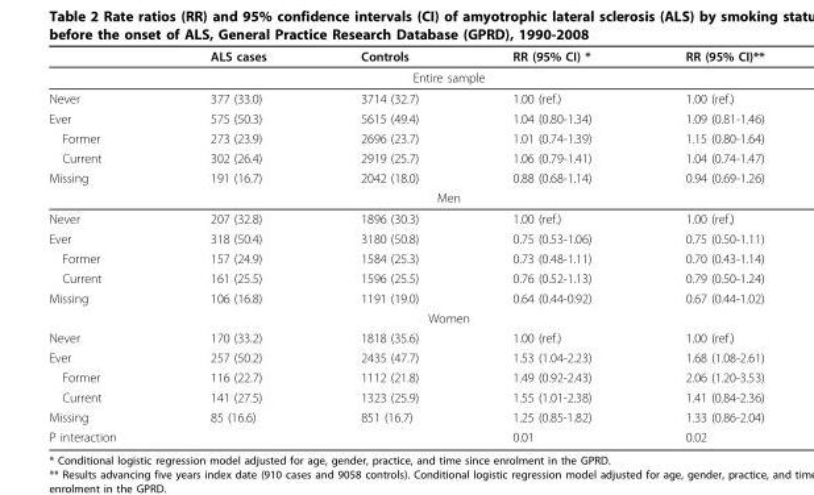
<table><thead><tr><td></td><td>ALS cases</td><td>Controls</td><td>RR (95% CI) *</td><td>RR (95% CI)**</td></tr></thead><tbody><tr><td colspan="5">Entire sample</td></tr><tr><td>Never</td><td>377 (33.0)</td><td>3714 (32.7)</td><td>1.00 (ref.)</td><td>1.00 (ref.)</td></tr><tr><td>Ever</td><td>575 (50.3)</td><td>5615 (49.4)</td><td>1.04 (0.80-1.34)</td><td>1.09 (0.81-1.46)</td></tr><tr><td>Former</td><td>273 (23.9)</td><td>2696 (23.7)</td><td>1.01 (0.74-1.39)</td><td>1.15 (0.80-1.64)</td></tr><tr><td>Current</td><td>302 (26.4)</td><td>2919 (25.7)</td><td>1.06 (0.79-1.41)</td><td>1.04 (0.74-1.47)</td></tr><tr><td>Missing</td><td>191 (16.7)</td><td>2042 (18.0)</td><td>0.88 (0.68-1.14)</td><td>0.94 (0.69-1.26)</td></tr><tr><td colspan="5">Men</td></tr><tr><td>Never</td><td>207 (32.8)</td><td>1896 (30.3)</td><td>1.00 (ref.)</td><td>1.00 (ref.)</td></tr><tr><td>Ever</td><td>318 (50.4)</td><td>3180 (50.8)</td><td>0.75 (0.53-1.06)</td><td>0.75 (0.50-1.11)</td></tr><tr><td>Former</td><td>157 (24.9)</td><td>1584 (25.3)</td><td>0.73 (0.48-1.11)</td><td>0.70 (0.43-1.14)</td></tr><tr><td>Current</td><td>161 (25.5)</td><td>1596 (25.5)</td><td>0.76 (0.52-1.13)</td><td>0.79 (0.50-1.24)</td></tr><tr><td>Missing</td><td>106 (16.8)</td><td>1191 (19.0)</td><td>0.64 (0.44-0.92)</td><td>0.67 (0.44-1.02)</td></tr><tr><td colspan="5">Women</td></tr><tr><td>Never</td><td>170 (33.2)</td><td>1818 (35.6)</td><td>1.00 (ref.)</td><td>1.00 (ref.)</td></tr><tr><td>Ever</td><td>257 (50.2)</td><td>2435 (47.7)</td><td>1.53 (1.04-2.23)</td><td>1.68 (1.08-2.61)</td></tr><tr><td>Former</td><td>116 (22.7)</td><td>1112 (21.8)</td><td>1.49 (0.92-2.43)</td><td>2.06 (1.20-3.53)</td></tr><tr><td>Current</td><td>141 (27.5)</td><td>1323 (25.9)</td><td>1.55 (1.01-2.38)</td><td>1.41 (0.84-2.36)</td></tr><tr><td>Missing</td><td>85 (16.6)</td><td>851 (16.7)</td><td>1.25 (0.85-1.82)</td><td>1.33 (0.86-2.04)</td></tr><tr><td>P interaction</td><td></td><td></td><td>0.01</td><td>0.02</td></tr></tbody></table>